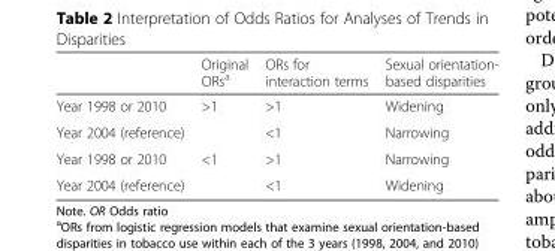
<table><thead><tr><td></td><td>Original ORs<sup>a</sup></td><td>ORs for interaction terms</td><td>Sexual orientation- based disparities</td></tr></thead><tbody><tr><td>Year 1998 or 2010</td><td rowspan="2">&gt;1</td><td>&gt;1</td><td>Widening</td></tr><tr><td>Year 2004 (reference)</td><td>&lt;1</td><td>Narrowing</td></tr><tr><td>Year 1998 or 2010</td><td rowspan="2">&lt;1</td><td>&gt;1</td><td>Narrowing</td></tr><tr><td>Year 2004 (reference)</td><td>&lt;1</td><td>Widening</td></tr></tbody></table>